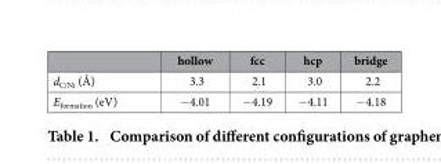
<table><thead><tr><td></td><td>hollow</td><td>fcc</td><td>hcp</td><td>bridge</td></tr></thead><tbody><tr><td>d<sub>C/Ni</sub> (Å)</td><td>3.3</td><td>2.1</td><td>3.0</td><td>2.2</td></tr><tr><td>E<sub>formation</sub> (eV)</td><td>− 4.01</td><td>− 4.19</td><td>− 4.11</td><td>− 4.18</td></tr></tbody></table>